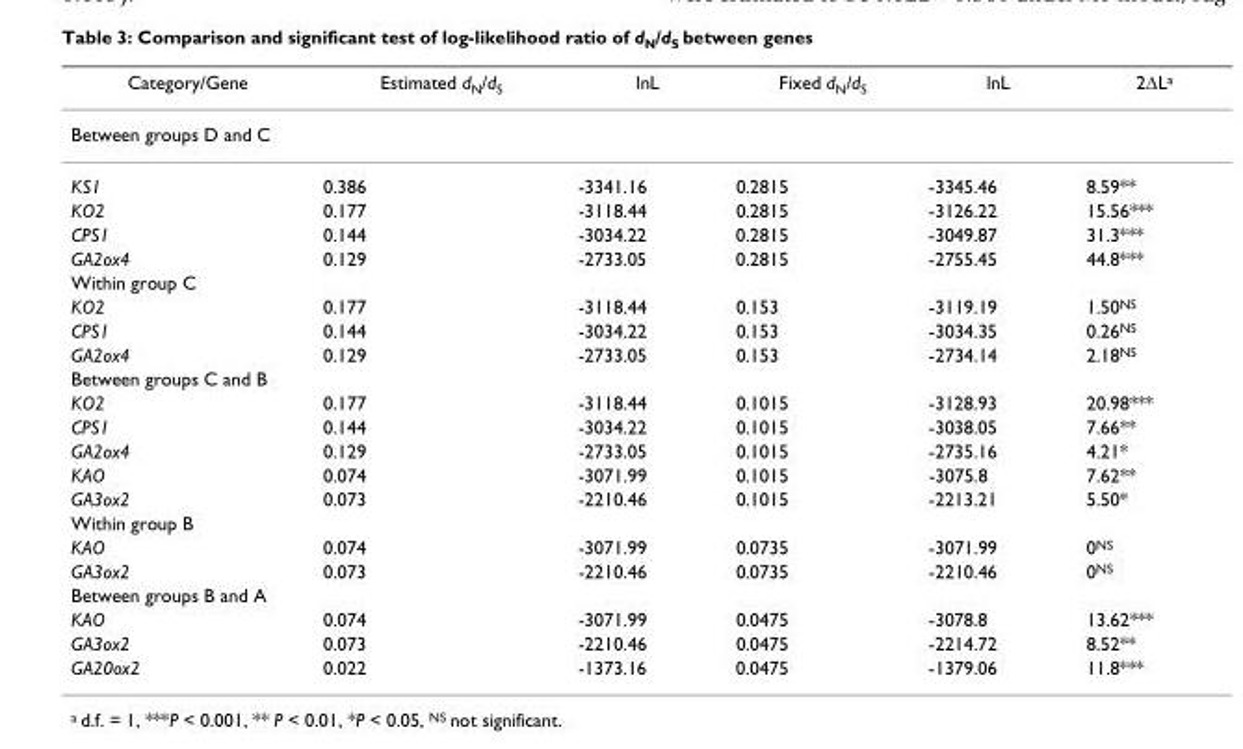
<table><thead><tr><td>Category/Gene</td><td>Estimated d<sub>N</sub>/d<sub>S</sub></td><td>lnL</td><td>Fixed d<sub>N</sub>/d<sub>S</sub></td><td>lnL</td><td>2ΔL<sup>a</sup></td></tr></thead><tbody><tr><td colspan="6">Between groups D and C</td></tr><tr><td>KS1</td><td>0.386</td><td>-3341.16</td><td>0.2815</td><td>-3345.46</td><td>8.59**</td></tr><tr><td>KO2</td><td>0.177</td><td>-3118.44</td><td>0.2815</td><td>-3126.22</td><td>15.56***</td></tr><tr><td>CPS1</td><td>0.144</td><td>-3034.22</td><td>0.2815</td><td>-3049.87</td><td>31.3***</td></tr><tr><td>GA2ox4</td><td>0.129</td><td>-2733.05</td><td>0.2815</td><td>-2755.45</td><td>44.8***</td></tr><tr><td colspan="6">Within group C</td></tr><tr><td>KO2</td><td>0.177</td><td>-3118.44</td><td>0.153</td><td>-3119.19</td><td>1.50<sup>NS</sup></td></tr><tr><td>CPS1</td><td>0.144</td><td>-3034.22</td><td>0.153</td><td>-3034.35</td><td>0.26<sup>NS</sup></td></tr><tr><td>GA2ox4</td><td>0.129</td><td>-2733.05</td><td>0.153</td><td>-2734.14</td><td>2.18<sup>NS</sup></td></tr><tr><td colspan="6">Between groups C and B</td></tr><tr><td>KO2</td><td>0.177</td><td>-3118.44</td><td>0.1015</td><td>-3128.93</td><td>20.98***</td></tr><tr><td>CPS1</td><td>0.144</td><td>-3034.22</td><td>0.1015</td><td>-3038.05</td><td>7.66**</td></tr><tr><td>GA2ox4</td><td>0.129</td><td>-2733.05</td><td>0.1015</td><td>-2735.16</td><td>4.21*</td></tr><tr><td>KAO</td><td>0.074</td><td>-3071.99</td><td>0.1015</td><td>-3075.8</td><td>7.62**</td></tr><tr><td>GA3ox2</td><td>0.073</td><td>-2210.46</td><td>0.1015</td><td>-2213.21</td><td>5.50*</td></tr><tr><td colspan="6">Within group B</td></tr><tr><td>KAO</td><td>0.074</td><td>-3071.99</td><td>0.0735</td><td>-3071.99</td><td>0<sup>NS</sup></td></tr><tr><td>GA3ox2</td><td>0.073</td><td>-2210.46</td><td>0.0735</td><td>-2210.46</td><td>0<sup>NS</sup></td></tr><tr><td colspan="6">Between groups B and A</td></tr><tr><td>KAO</td><td>0.074</td><td>-3071.99</td><td>0.0475</td><td>-3078.8</td><td>13.62***</td></tr><tr><td>GA3ox2</td><td>0.073</td><td>-2210.46</td><td>0.0475</td><td>-2214.72</td><td>8.52**</td></tr><tr><td>GA20ox2</td><td>0.022</td><td>-1373.16</td><td>0.0475</td><td>-1379.06</td><td>11.8***</td></tr></tbody></table>